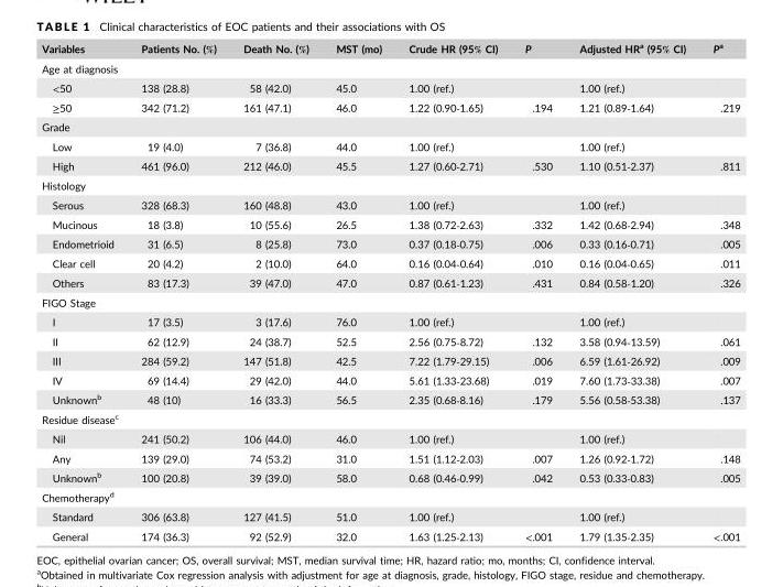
<table><thead><tr><td>Variables</td><td>Patients No. (%)</td><td>Death No. (%)</td><td>MST (mo)</td><td>Crude HR (95% CI)</td><td>P</td><td>Adjusted HR<sup>a</sup> (95% CI)</td><td>Pa</td></tr></thead><tbody><tr><td colspan="8">Age at diagnosis</td></tr><tr><td>&lt;50</td><td>138 (28.8)</td><td>58 (42.0)</td><td>45.0</td><td>1.00 (ref.)</td><td></td><td>1.00 (ref.)</td><td></td></tr><tr><td>≥50</td><td>342 (71.2)</td><td>161 (47.1)</td><td>46.0</td><td>1.22 (0.90‐1.65)</td><td>.194</td><td>1.21 (0.89‐1.64)</td><td>.219</td></tr><tr><td colspan="8">Grade</td></tr><tr><td>Low</td><td>19 (4.0)</td><td>7 (36.8)</td><td>44.0</td><td>1.00 (ref.)</td><td></td><td>1.00 (ref.)</td><td></td></tr><tr><td>High</td><td>461 (96.0)</td><td>212 (46.0)</td><td>45.5</td><td>1.27 (0.60‐2.71)</td><td>.530</td><td>1.10 (0.51‐2.37)</td><td>.811</td></tr><tr><td colspan="8">Histology</td></tr><tr><td>Serous</td><td>328 (68.3)</td><td>160 (48.8)</td><td>43.0</td><td>1.00 (ref.)</td><td></td><td>1.00 (ref.)</td><td></td></tr><tr><td>Mucinous</td><td>18 (3.8)</td><td>10 (55.6)</td><td>26.5</td><td>1.38 (0.72‐2.63)</td><td>.332</td><td>1.42 (0.68‐2.94)</td><td>.348</td></tr><tr><td>Endometrioid</td><td>31 (6.5)</td><td>8 (25.8)</td><td>73.0</td><td>0.37 (0.18‐0.75)</td><td>.006</td><td>0.33 (0.16‐0.71)</td><td>.005</td></tr><tr><td>Clear cell</td><td>20 (4.2)</td><td>2 (10.0)</td><td>64.0</td><td>0.16 (0.04‐0.64)</td><td>.010</td><td>0.16 (0.04‐0.65)</td><td>.011</td></tr><tr><td>Others</td><td>83 (17.3)</td><td>39 (47.0)</td><td>47.0</td><td>0.87 (0.61‐1.23)</td><td>.431</td><td>0.84 (0.58‐1.20)</td><td>.326</td></tr><tr><td colspan="8">FIGO Stage</td></tr><tr><td>I</td><td>17 (3.5)</td><td>3 (17.6)</td><td>76.0</td><td>1.00 (ref.)</td><td></td><td>1.00 (ref.)</td><td></td></tr><tr><td>II</td><td>62 (12.9)</td><td>24 (38.7)</td><td>52.5</td><td>2.56 (0.75‐8.72)</td><td>.132</td><td>3.58 (0.94‐13.59)</td><td>.061</td></tr><tr><td>III</td><td>284 (59.2)</td><td>147 (51.8)</td><td>42.5</td><td>7.22 (1.79‐29.15)</td><td>.006</td><td>6.59 (1.61‐26.92)</td><td>.009</td></tr><tr><td>IV</td><td>69 (14.4)</td><td>29 (42.0)</td><td>44.0</td><td>5.61 (1.33‐23.68)</td><td>.019</td><td>7.60 (1.73‐33.38)</td><td>.007</td></tr><tr><td>Unknown<sup>b</sup></td><td>48 (10)</td><td>16 (33.3)</td><td>56.5</td><td>2.35 (0.68‐8.16)</td><td>.179</td><td>5.56 (0.58‐53.38)</td><td>.137</td></tr><tr><td colspan="8">Residue disease<sup>c</sup></td></tr><tr><td>Nil</td><td>241 (50.2)</td><td>106 (44.0)</td><td>46.0</td><td>1.00 (ref.)</td><td></td><td>1.00 (ref.)</td><td></td></tr><tr><td>Any</td><td>139 (29.0)</td><td>74 (53.2)</td><td>31.0</td><td>1.51 (1.12‐2.03)</td><td>.007</td><td>1.26 (0.92‐1.72)</td><td>.148</td></tr><tr><td>Unknown<sup>b</sup></td><td>100 (20.8)</td><td>39 (39.0)</td><td>58.0</td><td>0.68 (0.46‐0.99)</td><td>.042</td><td>0.53 (0.33‐0.83)</td><td>.005</td></tr><tr><td colspan="8">Chemotherapy<sup>d</sup></td></tr><tr><td>Standard</td><td>306 (63.8)</td><td>127 (41.5)</td><td>51.0</td><td>1.00 (ref.)</td><td></td><td>1.00 (ref.)</td><td></td></tr><tr><td>General</td><td>174 (36.3)</td><td>92 (52.9)</td><td>32.0</td><td>1.63 (1.25‐2.13)</td><td>&lt;.001</td><td>1.79 (1.35‐2.35)</td><td>&lt;.001</td></tr></tbody></table>